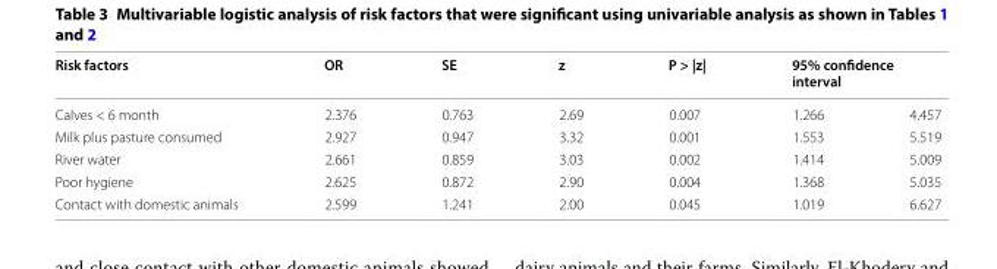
<table><thead><tr><td rowspan="2">Risk factors Calves &lt; 6 month</td><td rowspan="2">OR 2.376</td><td rowspan="2">SE 0.763</td><td rowspan="2">z 2.69</td><td rowspan="2">P &gt; |z| 0.007</td><td colspan="2">95% confidence interval</td></tr><tr><td>1.266</td><td>4.457</td></tr></thead><tbody><tr><td>Milk plus pasture consumed</td><td>2.927</td><td>0.947</td><td>3.32</td><td>0.001</td><td>1.553</td><td>5.519</td></tr><tr><td>River water</td><td>2.661</td><td>0.859</td><td>3.03</td><td>0.002</td><td>1.414</td><td>5.009</td></tr><tr><td>Poor hygiene</td><td>2.625</td><td>0.872</td><td>2.90</td><td>0.004</td><td>1.368</td><td>5.035</td></tr><tr><td>Contact with domestic animals</td><td>2.599</td><td>1.241</td><td>2.00</td><td>0.045</td><td>1.019</td><td>6.627</td></tr></tbody></table>